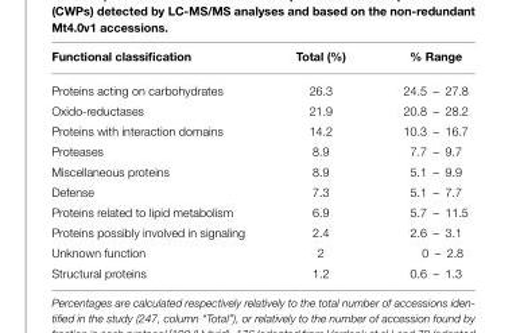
<table><thead><tr><td>Functional classification</td><td>Total (%)</td><td>% Range</td></tr></thead><tbody><tr><td>Proteins acting on carbohydrates</td><td>26.3</td><td>24.5 – 27.8</td></tr><tr><td>Oxido-reductases</td><td>21.9</td><td>20.8 – 28.2</td></tr><tr><td>Proteins with interaction domains</td><td>14.2</td><td>10.3 – 16.7</td></tr><tr><td>Proteases</td><td>8.9</td><td>7.7 – 9.7</td></tr><tr><td>Miscellaneous proteins</td><td>8.9</td><td>5.1 – 9.9</td></tr><tr><td>Defense</td><td>7.3</td><td>5.1 – 7.7</td></tr><tr><td>Proteins related to lipid metabolism</td><td>6.9</td><td>5.7 – 11.5</td></tr><tr><td>Proteins possibly involved in signaling</td><td>2.4</td><td>2.6 – 3.1</td></tr><tr><td>Unknown function</td><td>2</td><td>0 – 2.8</td></tr><tr><td>Structural proteins</td><td>1.2</td><td>0.6 – 1.3</td></tr></tbody></table>